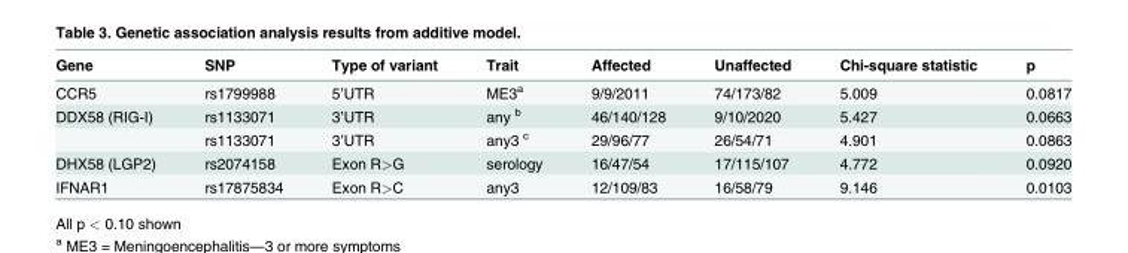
<table><thead><tr><td>Gene</td><td>SNP</td><td>Type of variant</td><td>Trait</td><td>Affected</td><td>Unaffected</td><td>Chi-square statistic</td><td>p</td></tr></thead><tbody><tr><td>CCR5</td><td>rs1799988</td><td>5’UTR</td><td>ME3<sup>a</sup></td><td>9/9/2011</td><td>74/173/82</td><td>5.009</td><td>0.0817</td></tr><tr><td rowspan="2">DDX58 (RIG-I)</td><td>rs1133071</td><td>3’UTR</td><td>any <sup>b</sup></td><td>46/140/128</td><td>9/10/2020</td><td>5.427</td><td>0.0663</td></tr><tr><td>rs1133071</td><td>3’UTR</td><td>any3 <sup>c</sup></td><td>29/96/77</td><td>26/54/71</td><td>4.901</td><td>0.0863</td></tr><tr><td>DHX58 (LGP2)</td><td>rs2074158</td><td>Exon R&gt;G</td><td>serology</td><td>16/47/54</td><td>17/115/107</td><td>4.772</td><td>0.0920</td></tr><tr><td>IFNAR1</td><td>rs17875834</td><td>Exon R&gt;C</td><td>any3</td><td>12/109/83</td><td>16/58/79</td><td>9.146</td><td>0.0103</td></tr></tbody></table>